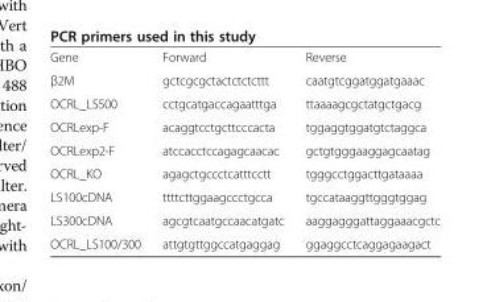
<table><tbody><tr><td>Gene</td><td>Forward</td><td>Reverse</td></tr><tr><td>β2M</td><td>gctcgcgctactctctcttt</td><td>caatgtcggatggatgaaac</td></tr><tr><td>OCRL_LS500</td><td>cctgcatgaccagaatttga</td><td>ttaaaagcgctatgctgacg</td></tr><tr><td>OCRLexp-F</td><td>acaggtcctgcttcccacta</td><td>tggaggtggatgtctaggca</td></tr><tr><td>OCRLexp2-F</td><td>atccacctccagagcaacac</td><td>gctgtgggaaggagcaatag</td></tr><tr><td>OCRL_KO</td><td>agagctgccctcatttcctt</td><td>tgggcctggacttgataaaa</td></tr><tr><td>LS100cDNA</td><td>ttttcttggaagccctgcca</td><td>tgccataaggttgggtggag</td></tr><tr><td>LS300cDNA</td><td>agcgtcaatgccaacatgatc</td><td>aaggagggattaggaaacgctc</td></tr><tr><td>OCRL_LS100/300</td><td>attgtgttggccatgaggag</td><td>ggaggcctcaggagaagact</td></tr></tbody></table>